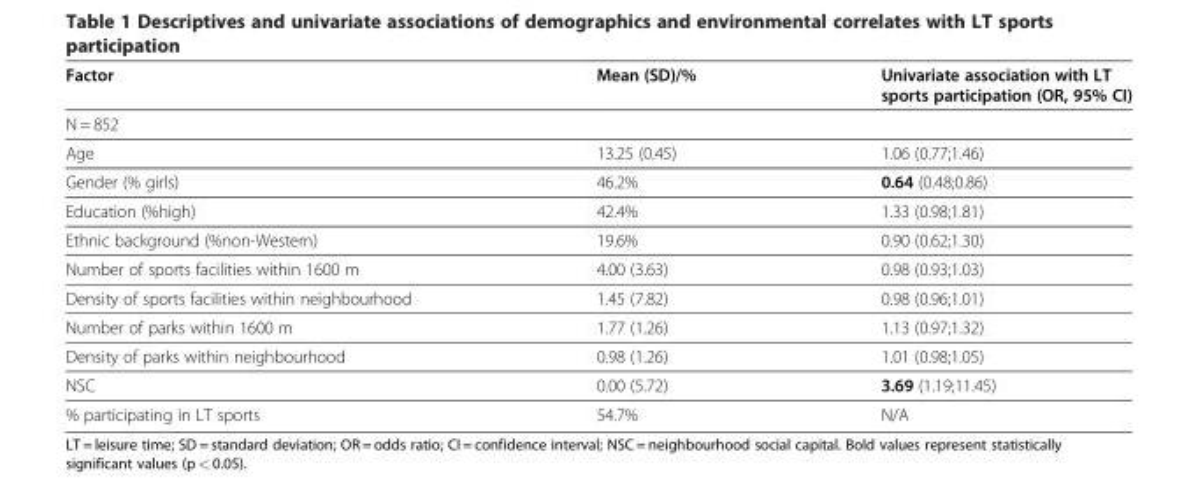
<table><thead><tr><td>Factor</td><td>Mean (SD)/%</td><td>Univariate association with LT sports participation (OR, 95% CI)</td></tr></thead><tbody><tr><td colspan="3">N = 852</td></tr><tr><td>Age</td><td>13.25 (0.45)</td><td>1.06 (0.77;1.46)</td></tr><tr><td>Gender (% girls)</td><td>46.2%</td><td>0.64 (0.48;0.86)</td></tr><tr><td>Education (%high)</td><td>42.4%</td><td>1.33 (0.98;1.81)</td></tr><tr><td>Ethnic background (%non-Western)</td><td>19.6%</td><td>0.90 (0.62;1.30)</td></tr><tr><td>Number of sports facilities within 1600 m</td><td>4.00 (3.63)</td><td>0.98 (0.93;1.03)</td></tr><tr><td>Density of sports facilities within neighbourhood</td><td>1.45 (7.82)</td><td>0.98 (0.96;1.01)</td></tr><tr><td>Number of parks within 1600 m</td><td>1.77 (1.26)</td><td>1.13 (0.97;1.32)</td></tr><tr><td>Density of parks within neighbourhood</td><td>0.98 (1.26)</td><td>1.01 (0.98;1.05)</td></tr><tr><td>NSC</td><td>0.00 (5.72)</td><td>3.69 (1.19;11.45)</td></tr><tr><td>% participating in LT sports</td><td>54.7%</td><td>N/A</td></tr></tbody></table>